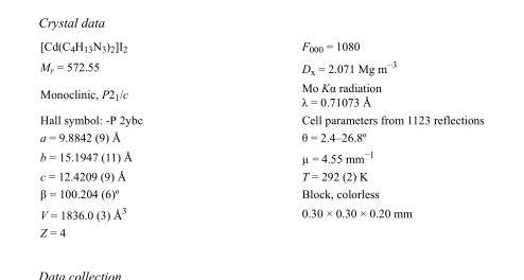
<table><tbody><tr><td>[Cd(C<sub>4</sub>H<sub>13</sub>N<sub>3</sub>)<sub>2</sub>]I<sub>2</sub></td><td>F<sub>000</sub> = 1080</td></tr><tr><td>M<sub>r</sub> = 572.55</td><td>D<sub>x</sub> = 2.071 Mg m<sup>−3</sup></td></tr><tr><td>Monoclinic, P2<sub>1</sub>/c</td><td>Mo Kα radiation λ = 0.71073 Å</td></tr><tr><td>Hall symbol: -P 2ybc</td><td>Cell parameters from 1123 reflections</td></tr><tr><td>a = 9.8842 (9) Å</td><td>θ = 2.4–26.8º</td></tr><tr><td>b = 15.1947 (11) Å</td><td>µ = 4.55 mm<sup>−1</sup></td></tr><tr><td>c = 12.4209 (9) Å</td><td>T = 292 (2) K</td></tr><tr><td>β = 100.204 (6)º</td><td>Block, colorless</td></tr><tr><td>V = 1836.0 (3) Å<sup>3</sup></td><td>0.30 × 0.30 × 0.20 mm</td></tr><tr><td>Z = 4</td><td></td></tr></tbody></table>